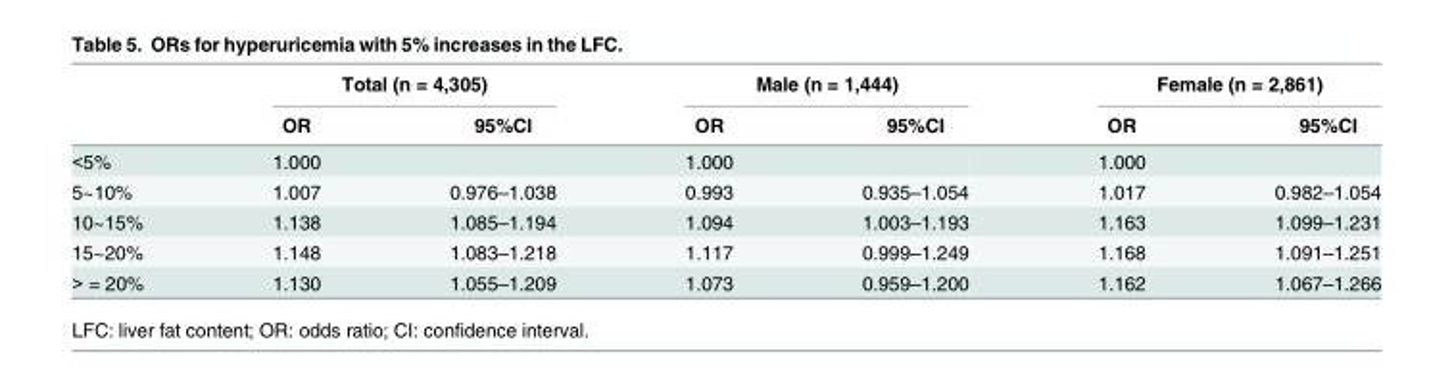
<table><thead><tr><td rowspan="2"></td><td colspan="2">Total (n = 4,305)</td><td colspan="2">Male (n = 1,444)</td><td colspan="2">Female (n = 2,861)</td></tr><tr><td>OR</td><td>95%CI</td><td>OR</td><td>95%CI</td><td>OR</td><td>95%CI</td></tr></thead><tbody><tr><td>&lt;5%</td><td>1.000</td><td></td><td>1.000</td><td></td><td>1.000</td><td></td></tr><tr><td>5~10%</td><td>1.007</td><td>0.976–1.038</td><td>0.993</td><td>0.935–1.054</td><td>1.017</td><td>0.982–1.054</td></tr><tr><td>10~15%</td><td>1.138</td><td>1.085–1.194</td><td>1.094</td><td>1.003–1.193</td><td>1.163</td><td>1.099–1.231</td></tr><tr><td>15~20%</td><td>1.148</td><td>1.083–1.218</td><td>1.117</td><td>0.999–1.249</td><td>1.168</td><td>1.091–1.251</td></tr><tr><td>&gt; = 20%</td><td>1.130</td><td>1.055–1.209</td><td>1.073</td><td>0.959–1.200</td><td>1.162</td><td>1.067–1.266</td></tr></tbody></table>